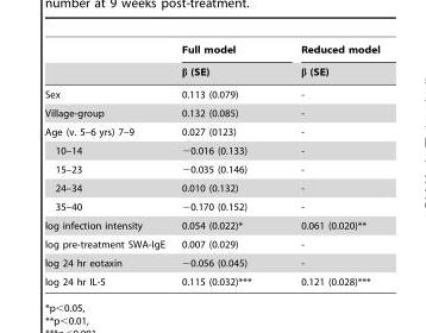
<table><thead><tr><td rowspan="2"></td><td rowspan="2">Full model β (SE)</td><td rowspan="2">Reduced model β (SE)</td></tr><tr></tr></thead><tbody><tr><td>Sex</td><td>0.113 (0.079)</td><td>-</td></tr><tr><td>Village-group</td><td>0.132 (0.085)</td><td>-</td></tr><tr><td>Age (v. 5–6 yrs) 7–9</td><td>0.027 (0123)</td><td>-</td></tr><tr><td>10–14</td><td>−0.016 (0.133)</td><td>-</td></tr><tr><td>15–23</td><td>−0.035 (0.146)</td><td>-</td></tr><tr><td>24–34</td><td>0.010 (0.132)</td><td>-</td></tr><tr><td>35–40</td><td>−0.170 (0.152)</td><td>-</td></tr><tr><td>log infection intensity</td><td>0.054 (0.022)*</td><td>0.061 (0.020)**</td></tr><tr><td>log pre-treatment SWA-IgE</td><td>0.007 (0.029)</td><td>-</td></tr><tr><td>log 24 hr eotaxin</td><td>−0.056 (0.045)</td><td>-</td></tr><tr><td>log 24 hr IL-5</td><td>0.115 (0.032)***</td><td>0.121 (0.028)***</td></tr></tbody></table>